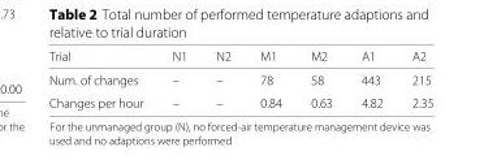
<table><thead><tr><td>Trial</td><td>N1</td><td>N2</td><td>M1</td><td>M2</td><td>A1</td><td>A2</td></tr></thead><tbody><tr><td>Num. of changes</td><td>–</td><td>–</td><td>78</td><td>58</td><td>443</td><td>215</td></tr><tr><td>Changes per hour</td><td>–</td><td>–</td><td>0.84</td><td>0.63</td><td>4.82</td><td>2.35</td></tr></tbody></table>